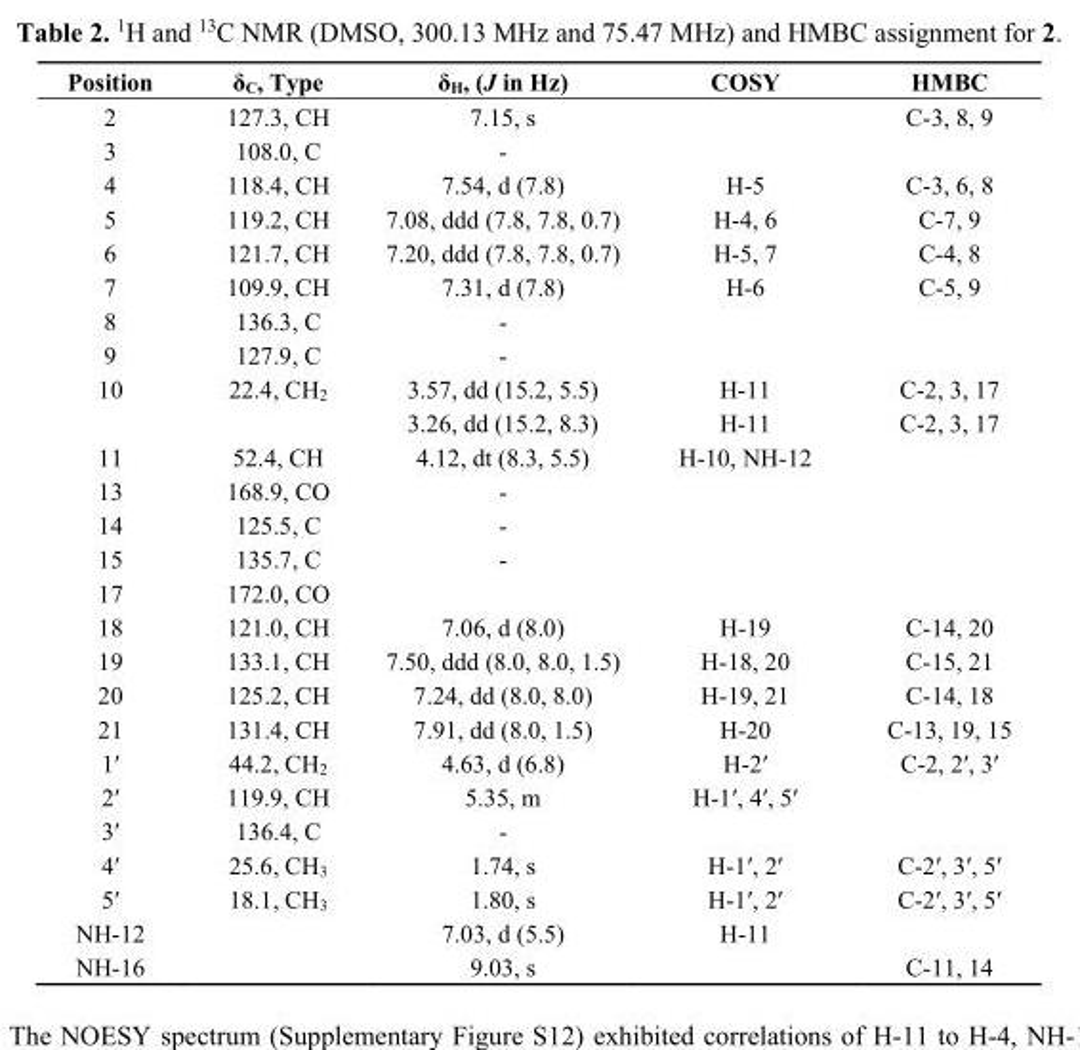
<table><thead><tr><td>Position</td><td>δ<sub>C</sub>, Type</td><td>δ<sub>H</sub>, (J in Hz)</td><td>COSY</td><td>HMBC</td></tr></thead><tbody><tr><td>2</td><td>127.3, CH</td><td>7.15, s</td><td></td><td>C-3, 8, 9</td></tr><tr><td>3</td><td>108.0, C</td><td>-</td><td></td><td></td></tr><tr><td>4</td><td>118.4, CH</td><td>7.54, d (7.8)</td><td>H-5</td><td>C-3, 6, 8</td></tr><tr><td>5</td><td>119.2, CH</td><td>7.08, ddd (7.8, 7.8, 0.7)</td><td>H-4, 6</td><td>C-7, 9</td></tr><tr><td>6</td><td>121.7, CH</td><td>7.20, ddd (7.8, 7.8, 0.7)</td><td>H-5, 7</td><td>C-4, 8</td></tr><tr><td>7</td><td>109.9, CH</td><td>7.31, d (7.8)</td><td>H-6</td><td>C-5, 9</td></tr><tr><td>8</td><td>136.3, C</td><td>-</td><td></td><td></td></tr><tr><td>9</td><td>127.9, C</td><td>-</td><td></td><td></td></tr><tr><td rowspan="2">10</td><td>22.4, CH<sub>2</sub></td><td>3.57, dd (15.2, 5.5)</td><td>H-11</td><td>C-2, 3, 17</td></tr><tr><td></td><td>3.26, dd (15.2, 8.3)</td><td>H-11</td><td>C-2, 3, 17</td></tr><tr><td>11</td><td>52.4, CH</td><td>4.12, dt (8.3, 5.5)</td><td>H-10, NH-12</td><td></td></tr><tr><td>13</td><td>168.9, CO</td><td>-</td><td></td><td></td></tr><tr><td>14</td><td>125.5, C</td><td>-</td><td></td><td></td></tr><tr><td>15</td><td>135.7, C</td><td>-</td><td></td><td></td></tr><tr><td>17</td><td>172.0, CO</td><td></td><td></td><td></td></tr><tr><td>18</td><td>121.0, CH</td><td>7.06, d (8.0)</td><td>H-19</td><td>C-14, 20</td></tr><tr><td>19</td><td>133.1, CH</td><td>7.50, ddd (8.0, 8.0, 1.5)</td><td>H-18, 20</td><td>C-15, 21</td></tr><tr><td>20</td><td>125.2, CH</td><td>7.24, dd (8.0, 8.0)</td><td>H-19, 21</td><td>C-14, 18</td></tr><tr><td>21</td><td>131.4, CH</td><td>7.91, dd (8.0, 1.5)</td><td>H-20</td><td>C-13, 19, 15</td></tr><tr><td>1′</td><td>44.2, CH<sub>2</sub></td><td>4.63, d (6.8)</td><td>H-2′</td><td>C-2, 2′, 3′</td></tr><tr><td>2′</td><td>119.9, CH</td><td>5.35, m</td><td>H-1′, 4′, 5′</td><td></td></tr><tr><td>3′</td><td>136.4, C</td><td>-</td><td></td><td></td></tr><tr><td>4′</td><td>25.6, CH<sub>3</sub></td><td>1.74, s</td><td>H-1′, 2′</td><td>C-2′, 3′, 5′</td></tr><tr><td>5′</td><td>18.1, CH<sub>3</sub></td><td>1.80, s</td><td>H-1′, 2′</td><td>C-2′, 3′, 5′</td></tr><tr><td>NH-12</td><td></td><td>7.03, d (5.5)</td><td>H-11</td><td></td></tr><tr><td>NH-16</td><td></td><td>9.03, s</td><td></td><td>C-11, 14</td></tr></tbody></table>